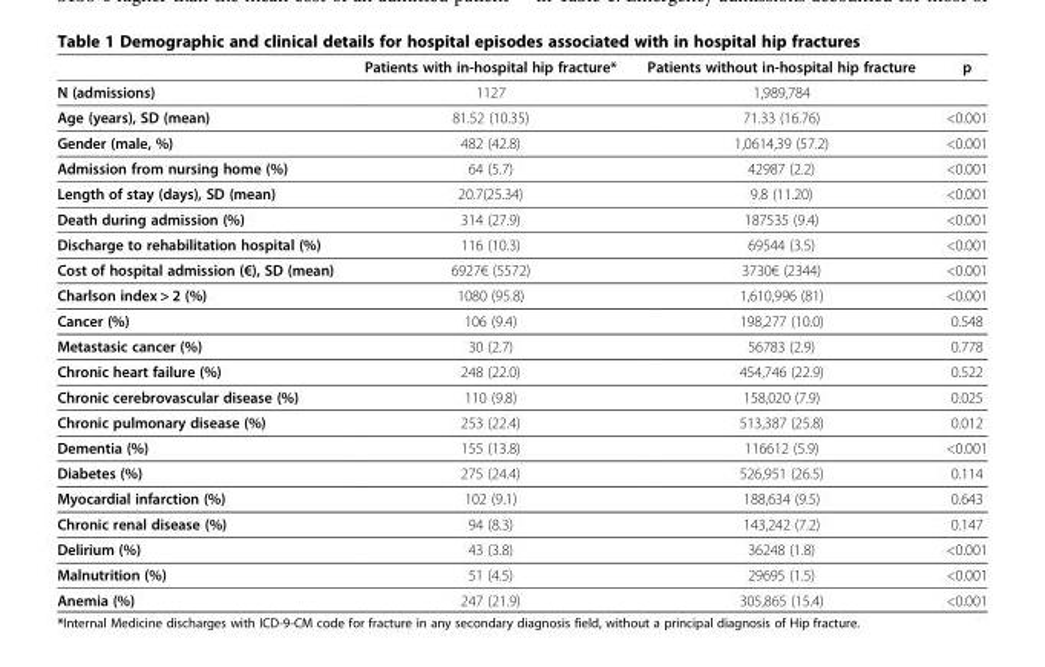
<table><thead><tr><td></td><td>Patients with in-hospital hip fracture*</td><td>Patients without in-hospital hip fracture</td><td>p</td></tr></thead><tbody><tr><td>N (admissions)</td><td>1127</td><td>1,989,784</td><td></td></tr><tr><td>Age (years), SD (mean)</td><td>81.52 (10.35)</td><td>71.33 (16.76)</td><td>&lt;0.001</td></tr><tr><td>Gender (male, %)</td><td>482 (42.8)</td><td>1,0614,39 (57.2)</td><td>&lt;0.001</td></tr><tr><td>Admission from nursing home (%)</td><td>64 (5.7)</td><td>42987 (2.2)</td><td>&lt;0.001</td></tr><tr><td>Length of stay (days), SD (mean)</td><td>20.7(25.34)</td><td>9.8 (11.20)</td><td>&lt;0.001</td></tr><tr><td>Death during admission (%)</td><td>314 (27.9)</td><td>187535 (9.4)</td><td>&lt;0.001</td></tr><tr><td>Discharge to rehabilitation hospital (%)</td><td>116 (10.3)</td><td>69544 (3.5)</td><td>&lt;0.001</td></tr><tr><td>Cost of hospital admission (€), SD (mean)</td><td>6927€ (5572)</td><td>3730€ (2344)</td><td>&lt;0.001</td></tr><tr><td>Charlson index &gt; 2 (%)</td><td>1080 (95.8)</td><td>1,610,996 (81)</td><td>&lt;0.001</td></tr><tr><td>Cancer (%)</td><td>106 (9.4)</td><td>198,277 (10.0)</td><td>0.548</td></tr><tr><td>Metastasic cancer (%)</td><td>30 (2.7)</td><td>56783 (2.9)</td><td>0.778</td></tr><tr><td>Chronic heart failure (%)</td><td>248 (22.0)</td><td>454,746 (22.9)</td><td>0.522</td></tr><tr><td>Chronic cerebrovascular disease (%)</td><td>110 (9.8)</td><td>158,020 (7.9)</td><td>0.025</td></tr><tr><td>Chronic pulmonary disease (%)</td><td>253 (22.4)</td><td>513,387 (25.8)</td><td>0.012</td></tr><tr><td>Dementia (%)</td><td>155 (13.8)</td><td>116612 (5.9)</td><td>&lt;0.001</td></tr><tr><td>Diabetes (%)</td><td>275 (24.4)</td><td>526,951 (26.5)</td><td>0.114</td></tr><tr><td>Myocardial infarction (%)</td><td>102 (9.1)</td><td>188,634 (9.5)</td><td>0.643</td></tr><tr><td>Chronic renal disease (%)</td><td>94 (8.3)</td><td>143,242 (7.2)</td><td>0.147</td></tr><tr><td>Delirium (%)</td><td>43 (3.8)</td><td>36248 (1.8)</td><td>&lt;0.001</td></tr><tr><td>Malnutrition (%)</td><td>51 (4.5)</td><td>29695 (1.5)</td><td>&lt;0.001</td></tr><tr><td>Anemia (%)</td><td>247 (21.9)</td><td>305,865 (15.4)</td><td>&lt;0.001</td></tr></tbody></table>